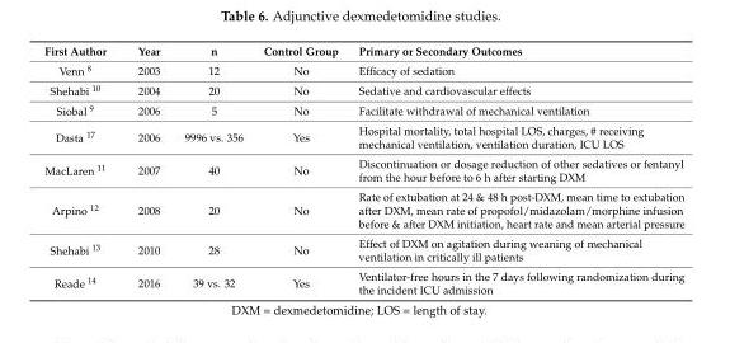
<table><thead><tr><td>First Author</td><td>Year</td><td>n</td><td>Control Group</td><td>Primary or Secondary Outcomes</td></tr></thead><tbody><tr><td>Venn <sup>8</sup></td><td>2003</td><td>12</td><td>No</td><td>Efficacy of sedation</td></tr><tr><td>Shehabi <sup>10</sup></td><td>2004</td><td>20</td><td>No</td><td>Sedative and cardiovascular effects</td></tr><tr><td>Siobal <sup>9</sup></td><td>2006</td><td>5</td><td>No</td><td>Facilitate withdrawal of mechanical ventilation</td></tr><tr><td>Dasta <sup>17</sup></td><td>2006</td><td>9996 vs. 356</td><td>Yes</td><td>Hospital mortality, total hospital LOS, charges, # receiving mechanical ventilation, ventilation duration, ICU LOS</td></tr><tr><td>MacLaren <sup>11</sup></td><td>2007</td><td>40</td><td>No</td><td>Discontinuation or dosage reduction of other sedatives or fentanyl from the hour before to 6 h after starting DXM</td></tr><tr><td>Arpino <sup>12</sup></td><td>2008</td><td>20</td><td>No</td><td>Rate of extubation at 24 &amp; 48 h post-DXM, mean time to extubation after DXM, mean rate of propofol/midazolam/morphine infusion before &amp; after DXM initiation, heart rate and mean arterial pressure</td></tr><tr><td>Shehabi <sup>13</sup></td><td>2010</td><td>28</td><td>No</td><td>Effect of DXM on agitation during weaning of mechanical ventilation in critically ill patients</td></tr><tr><td>Reade <sup>14</sup></td><td>2016</td><td>39 vs. 32</td><td>Yes</td><td>Ventilator-free hours in the 7 days following randomization during the incident ICU admission</td></tr></tbody></table>